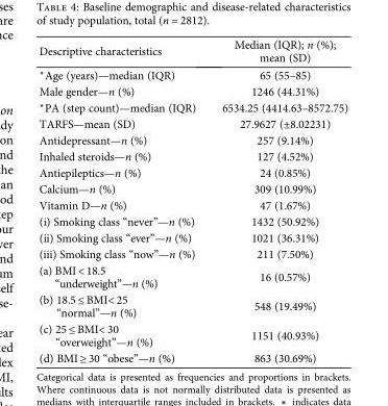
<table><thead><tr><td>Descriptive characteristics</td><td>Median (IQR); n (%); mean (SD)</td></tr></thead><tbody><tr><td>∗Age (years)—median (IQR)</td><td>65 (55–85)</td></tr><tr><td>Male gender—n (%)</td><td>1246 (44.31%)</td></tr><tr><td>∗PA (step count)—median (IQR)</td><td>6534.25 (4414.63–8572.75)</td></tr><tr><td>TARFS—mean (SD)</td><td>27.9627 (±8.02231)</td></tr><tr><td>Antidepressant—n (%)</td><td>257 (9.14%)</td></tr><tr><td>Inhaled steroids—n (%)</td><td>127 (4.52%)</td></tr><tr><td>Antiepileptics—n (%)</td><td>24 (0.85%)</td></tr><tr><td>Calcium—n (%)</td><td>309 (10.99%)</td></tr><tr><td>Vitamin D—n (%)</td><td>47 (1.67%)</td></tr><tr><td>(i) Smoking class “never”—n (%)</td><td>1432 (50.92%)</td></tr><tr><td>(ii) Smoking class “ever”—n (%)</td><td>1021 (36.31%)</td></tr><tr><td>(iii) Smoking class “now”—n (%)</td><td>211 (7.50%)</td></tr><tr><td>(a) BMI &lt; 18.5 “underweight”—n (%)</td><td>16 (0.57%)</td></tr><tr><td>(b) 18.5 ≤ BMI&lt; 25 “normal”—n (%)</td><td>548 (19.49%)</td></tr><tr><td>(c) 25 ≤ BMI&lt; 30 “overweight”—n (%)</td><td>1151 (40.93%)</td></tr><tr><td>(d) BMI ≥ 30 “obese”—n (%)</td><td>863 (30.69%)</td></tr></tbody></table>